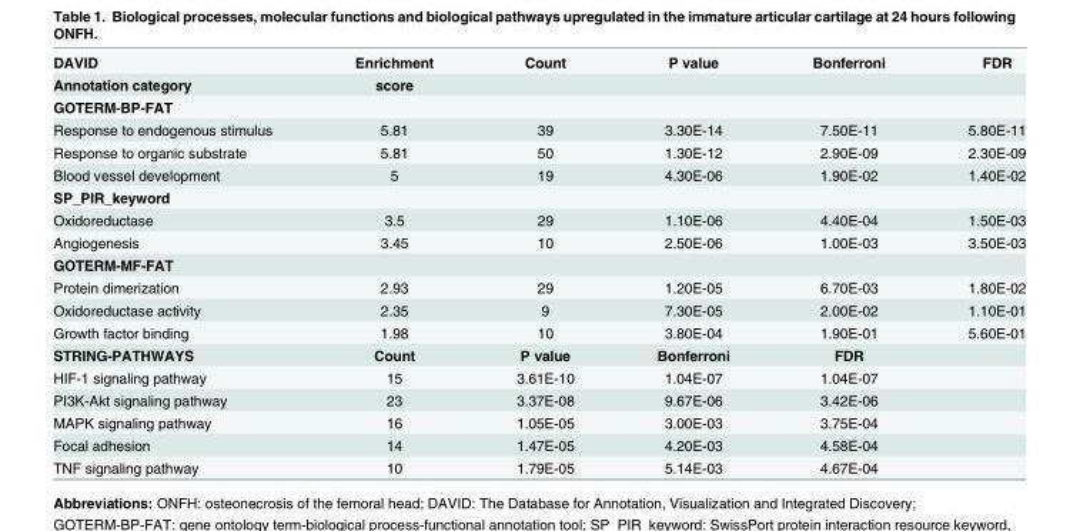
<table><tbody><tr><td>DAVID</td><td>Enrichment</td><td>Count</td><td>P value</td><td>Bonferroni</td><td>FDR</td></tr><tr><td>Annotation category</td><td>score</td><td></td><td></td><td></td><td></td></tr><tr><td colspan="6">GOTERM-BP-FAT</td></tr><tr><td>Response to endogenous stimulus</td><td>5.81</td><td>39</td><td>3.30E-14</td><td>7.50E-11</td><td>5.80E-11</td></tr><tr><td>Response to organic substrate</td><td>5.81</td><td>50</td><td>1.30E-12</td><td>2.90E-09</td><td>2.30E-09</td></tr><tr><td>Blood vessel development</td><td>5</td><td>19</td><td>4.30E-06</td><td>1.90E-02</td><td>1.40E-02</td></tr><tr><td colspan="6">SP_PIR_keyword</td></tr><tr><td>Oxidoreductase</td><td>3.5</td><td>29</td><td>1.10E-06</td><td>4.40E-04</td><td>1.50E-03</td></tr><tr><td>Angiogenesis</td><td>3.45</td><td>10</td><td>2.50E-06</td><td>1.00E-03</td><td>3.50E-03</td></tr><tr><td colspan="6">GOTERM-MF-FAT</td></tr><tr><td>Protein dimerization</td><td>2.93</td><td>29</td><td>1.20E-05</td><td>6.70E-03</td><td>1.80E-02</td></tr><tr><td>Oxidoreductase activity</td><td>2.35</td><td>9</td><td>7.30E-05</td><td>2.00E-02</td><td>1.10E-01</td></tr><tr><td>Growth factor binding</td><td>1.98</td><td>10</td><td>3.80E-04</td><td>1.90E-01</td><td>5.60E-01</td></tr><tr><td>STRING-PATHWAYS</td><td>Count</td><td>P value</td><td>Bonferroni</td><td>FDR</td><td></td></tr><tr><td>HIF-1 signaling pathway</td><td>15</td><td>3.61E-10</td><td>1.04E-07</td><td>1.04E-07</td><td></td></tr><tr><td>PI3K-Akt signaling pathway</td><td>23</td><td>3.37E-08</td><td>9.67E-06</td><td>3.42E-06</td><td></td></tr><tr><td>MAPK signaling pathway</td><td>16</td><td>1.05E-05</td><td>3.00E-03</td><td>3.75E-04</td><td></td></tr><tr><td>Focal adhesion</td><td>14</td><td>1.47E-05</td><td>4.20E-03</td><td>4.58E-04</td><td></td></tr><tr><td>TNF signaling pathway</td><td>10</td><td>1.79E-05</td><td>5.14E-03</td><td>4.67E-04</td><td></td></tr></tbody></table>